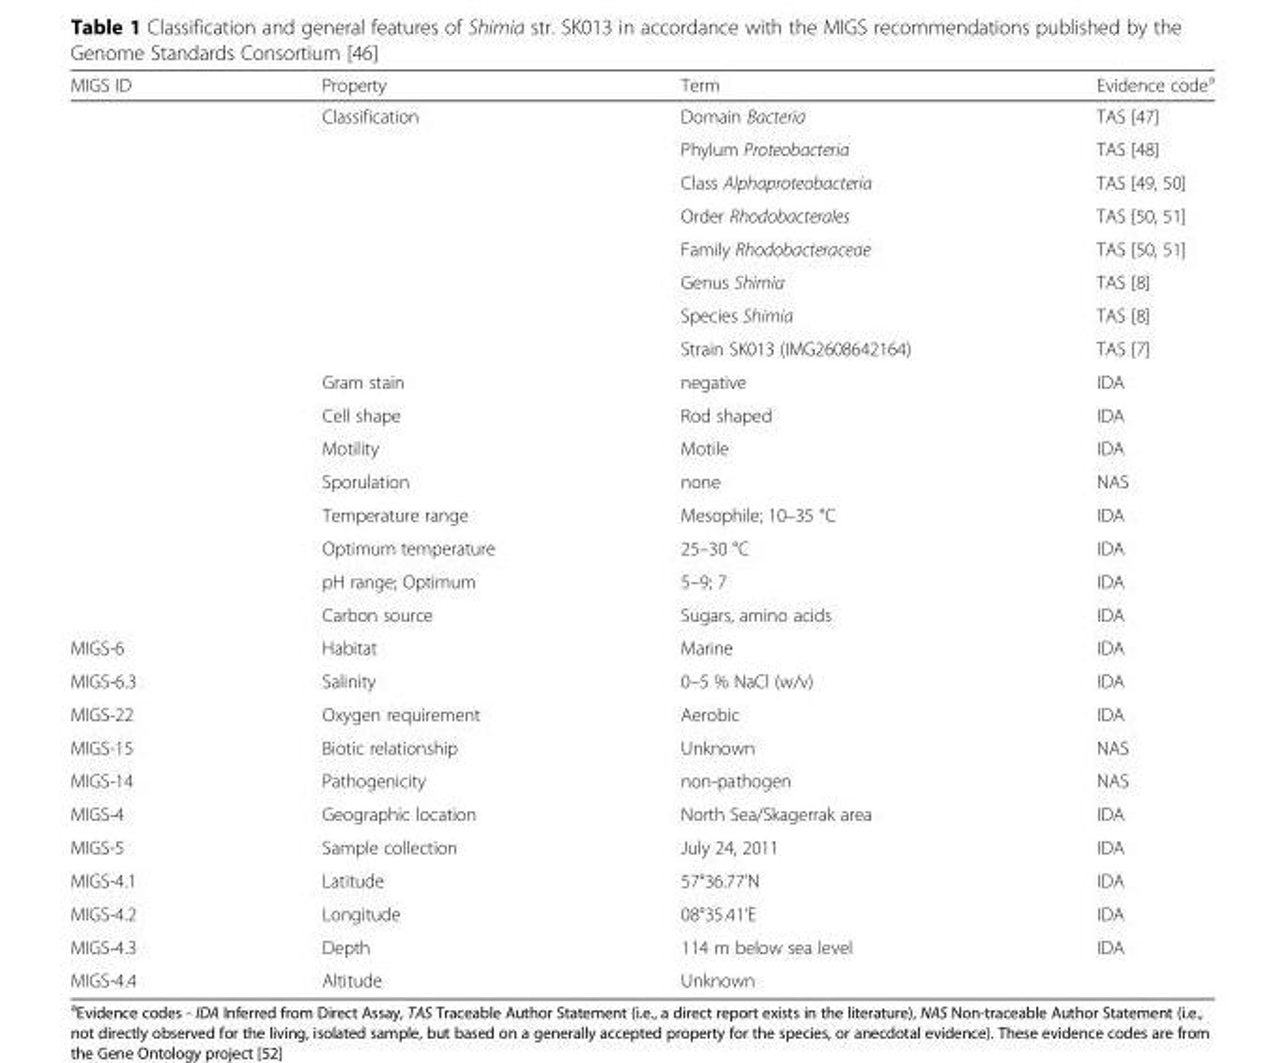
<table><thead><tr><td>MIGS ID</td><td>Property</td><td>Term</td><td>Evidence code<sup>a</sup></td></tr></thead><tbody><tr><td></td><td>Classification</td><td>Domain Bacteria</td><td>TAS [47]</td></tr><tr><td></td><td></td><td>Phylum Proteobacteria</td><td>TAS [48]</td></tr><tr><td></td><td></td><td>Class Alphaproteobacteria</td><td>TAS [49, 50]</td></tr><tr><td></td><td></td><td>Order Rhodobacterales</td><td>TAS [50, 51]</td></tr><tr><td></td><td></td><td>Family Rhodobacteraceae</td><td>TAS [50, 51]</td></tr><tr><td></td><td></td><td>Genus Shimia</td><td>TAS [8]</td></tr><tr><td></td><td></td><td>Species Shimia</td><td>TAS [8]</td></tr><tr><td></td><td></td><td>Strain SK013 (IMG2608642164)</td><td>TAS [7]</td></tr><tr><td></td><td>Gram stain</td><td>negative</td><td>IDA</td></tr><tr><td></td><td>Cell shape</td><td>Rod shaped</td><td>IDA</td></tr><tr><td></td><td>Motility</td><td>Motile</td><td>IDA</td></tr><tr><td></td><td>Sporulation</td><td>none</td><td>NAS</td></tr><tr><td></td><td>Temperature range</td><td>Mesophile; 10–35 °C</td><td>IDA</td></tr><tr><td></td><td>Optimum temperature</td><td>25–30 °C</td><td>IDA</td></tr><tr><td></td><td>pH range; Optimum</td><td>5–9; 7</td><td>IDA</td></tr><tr><td></td><td>Carbon source</td><td>Sugars, amino acids</td><td>IDA</td></tr><tr><td>MIGS-6</td><td>Habitat</td><td>Marine</td><td>IDA</td></tr><tr><td>MIGS-6.3</td><td>Salinity</td><td>0–5 % NaCl (w/v)</td><td>IDA</td></tr><tr><td>MIGS-22</td><td>Oxygen requirement</td><td>Aerobic</td><td>IDA</td></tr><tr><td>MIGS-15</td><td>Biotic relationship</td><td>Unknown</td><td>NAS</td></tr><tr><td>MIGS-14</td><td>Pathogenicity</td><td>non-pathogen</td><td>NAS</td></tr><tr><td>MIGS-4</td><td>Geographic location</td><td>North Sea/Skagerrak area</td><td>IDA</td></tr><tr><td>MIGS-5</td><td>Sample collection</td><td>July 24, 2011</td><td>IDA</td></tr><tr><td>MIGS-4.1</td><td>Latitude</td><td>57°36.77‘N</td><td>IDA</td></tr><tr><td>MIGS-4.2</td><td>Longitude</td><td>08°35.41‘E</td><td>IDA</td></tr><tr><td>MIGS-4.3</td><td>Depth</td><td>114 m below sea level</td><td>IDA</td></tr><tr><td>MIGS-4.4</td><td>Altitude</td><td>Unknown</td><td></td></tr></tbody></table>